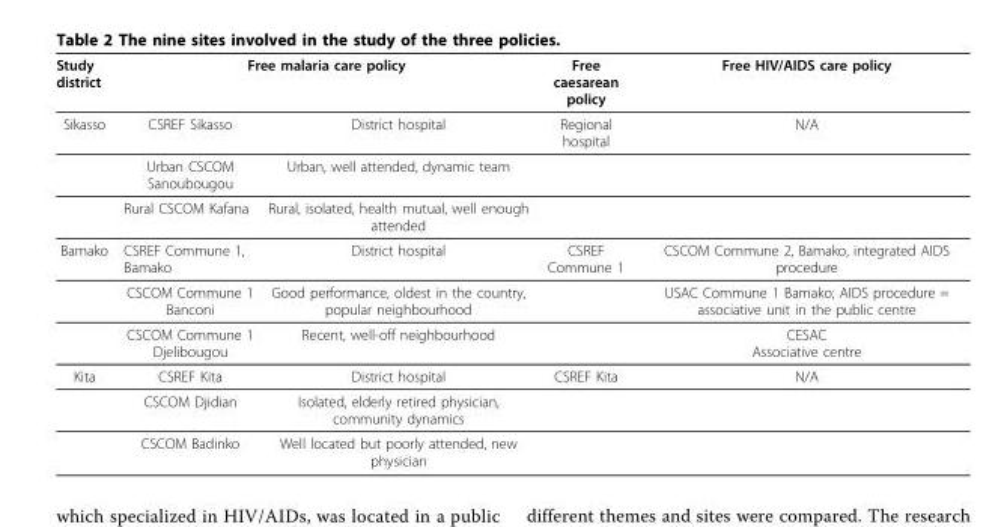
<table><thead><tr><td rowspan="2">Study district Sikasso</td><td colspan="2">Free malaria care policy</td><td rowspan="2">Free caesarean policy Regional hospital</td><td rowspan="2">Free HIV/AIDS care policy N/A</td></tr><tr><td>CSREF Sikasso</td><td>District hospital</td></tr></thead><tbody><tr><td></td><td>Urban CSCOM Sanoubougou</td><td>Urban, well attended, dynamic team</td><td></td><td></td></tr><tr><td></td><td>Rural CSCOM Kafana</td><td>Rural, isolated, health mutual, well enough attended</td><td></td><td></td></tr><tr><td rowspan="3">Bamako</td><td>CSREF Commune 1, Bamako</td><td>District hospital</td><td>CSREF Commune 1</td><td>CSCOM Commune 2, Bamako, integrated AIDS procedure</td></tr><tr><td>CSCOM Commune 1 Banconi</td><td>Good performance, oldest in the country, popular neighbourhood</td><td></td><td>USAC Commune 1 Bamako; AIDS procedure = associative unit in the public centre</td></tr><tr><td>CSCOM Commune 1 Djelibougou</td><td>Recent, well-off neighbourhood</td><td></td><td>CESAC Associative centre</td></tr><tr><td rowspan="3">Kita</td><td>CSREF Kita</td><td>District hospital</td><td>CSREF Kita</td><td>N/A</td></tr><tr><td>CSCOM Djidian</td><td>Isolated, elderly retired physician, community dynamics</td><td></td><td></td></tr><tr><td>CSCOM Badinko</td><td>Well located but poorly attended, new physician</td><td></td><td></td></tr></tbody></table>